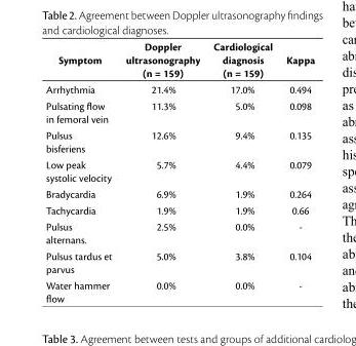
<table><thead><tr><td>Symptom</td><td>Doppler ultrasonography (n = 159)</td><td>Cardiological diagnosis (n = 159)</td><td>Kappa</td></tr></thead><tbody><tr><td>Arrhythmia</td><td>21.4%</td><td>17.0%</td><td>0.494</td></tr><tr><td>Pulsating flow in femoral vein</td><td>11.3%</td><td>5.0%</td><td>0.098</td></tr><tr><td>Pulsus bisferiens</td><td>12.6%</td><td>9.4%</td><td>0.135</td></tr><tr><td>Low peak systolic velocity</td><td>5.7%</td><td>4.4%</td><td>0.079</td></tr><tr><td>Bradycardia</td><td>6.9%</td><td>1.9%</td><td>0.264</td></tr><tr><td>Tachycardia</td><td>1.9%</td><td>1.9%</td><td>0.66</td></tr><tr><td>Pulsus alternans.</td><td>2.5%</td><td>0.0%</td><td>-</td></tr><tr><td>Pulsus tardus et parvus</td><td>5.0%</td><td>3.8%</td><td>0.104</td></tr><tr><td>Water hammer flow</td><td>0.0%</td><td>0.0%</td><td>-</td></tr></tbody></table>